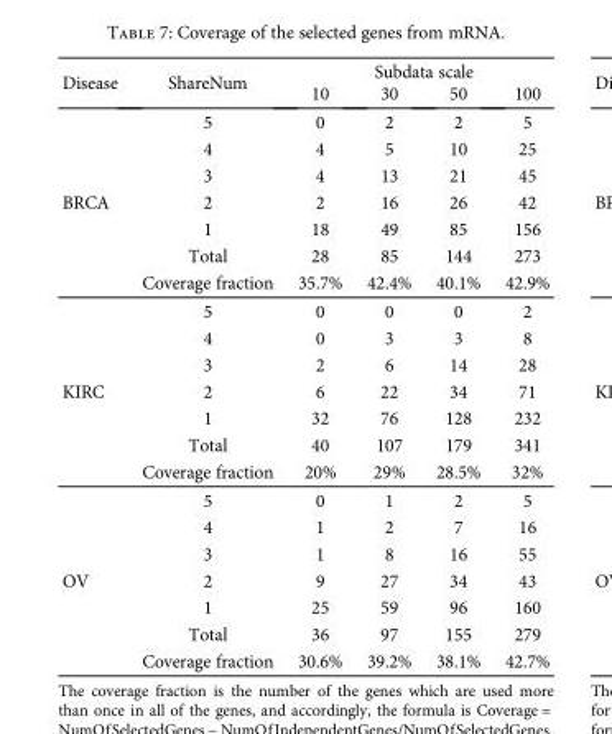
<table><thead><tr><td rowspan="2">Disease</td><td rowspan="2">ShareNum</td><td colspan="4">Subdata scale</td></tr><tr><td>10</td><td>30</td><td>50</td><td>100</td></tr></thead><tbody><tr><td rowspan="7">BRCA</td><td>5</td><td>0</td><td>2</td><td>2</td><td>5</td></tr><tr><td>4</td><td>4</td><td>5</td><td>10</td><td>25</td></tr><tr><td>3</td><td>4</td><td>13</td><td>21</td><td>45</td></tr><tr><td>2</td><td>2</td><td>16</td><td>26</td><td>42</td></tr><tr><td>1</td><td>18</td><td>49</td><td>85</td><td>156</td></tr><tr><td>Total</td><td>28</td><td>85</td><td>144</td><td>273</td></tr><tr><td>Coverage fraction</td><td>35.7%</td><td>42.4%</td><td>40.1%</td><td>42.9%</td></tr><tr><td rowspan="7">KIRC</td><td>5</td><td>0</td><td>0</td><td>0</td><td>2</td></tr><tr><td>4</td><td>0</td><td>3</td><td>3</td><td>8</td></tr><tr><td>3</td><td>2</td><td>6</td><td>14</td><td>28</td></tr><tr><td>2</td><td>6</td><td>22</td><td>34</td><td>71</td></tr><tr><td>1</td><td>32</td><td>76</td><td>128</td><td>232</td></tr><tr><td>Total</td><td>40</td><td>107</td><td>179</td><td>341</td></tr><tr><td>Coverage fraction</td><td>20%</td><td>29%</td><td>28.5%</td><td>32%</td></tr><tr><td rowspan="7">OV</td><td>5</td><td>0</td><td>1</td><td>2</td><td>5</td></tr><tr><td>4</td><td>1</td><td>2</td><td>7</td><td>16</td></tr><tr><td>3</td><td>1</td><td>8</td><td>16</td><td>55</td></tr><tr><td>2</td><td>9</td><td>27</td><td>34</td><td>43</td></tr><tr><td>1</td><td>25</td><td>59</td><td>96</td><td>160</td></tr><tr><td>Total</td><td>36</td><td>97</td><td>155</td><td>279</td></tr><tr><td>Coverage fraction</td><td>30.6%</td><td>39.2%</td><td>38.1%</td><td>42.7%</td></tr></tbody></table>